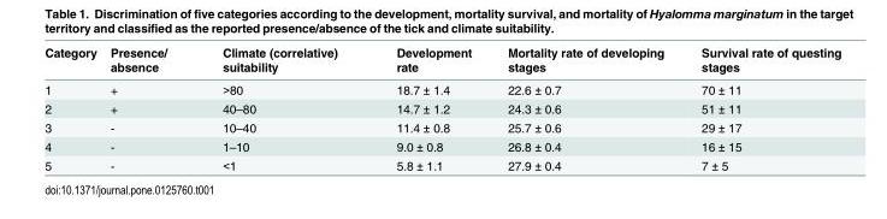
<table><thead><tr><td>Category</td><td>Presence/ absence</td><td>Climate (correlative) suitability</td><td>Development rate</td><td>Mortality rate of developing stages</td><td>Survival rate of questing stages</td></tr></thead><tbody><tr><td>1</td><td>+</td><td>&gt;80</td><td>18.7 ± 1.4</td><td>22.6 ± 0.7</td><td>70 ± 11</td></tr><tr><td>2</td><td>+</td><td>40–80</td><td>14.7 ± 1.2</td><td>24.3 ± 0.6</td><td>51 ± 11</td></tr><tr><td>3</td><td>-</td><td>10–40</td><td>11.4 ± 0.8</td><td>25.7 ± 0.6</td><td>29 ± 17</td></tr><tr><td>4</td><td>-</td><td>1–10</td><td>9.0 ± 0.8</td><td>26.8 ± 0.4</td><td>16 ± 15</td></tr><tr><td>5</td><td>-</td><td>&lt;1</td><td>5.8 ± 1.1</td><td>27.9 ± 0.4</td><td>7 ± 5</td></tr></tbody></table>